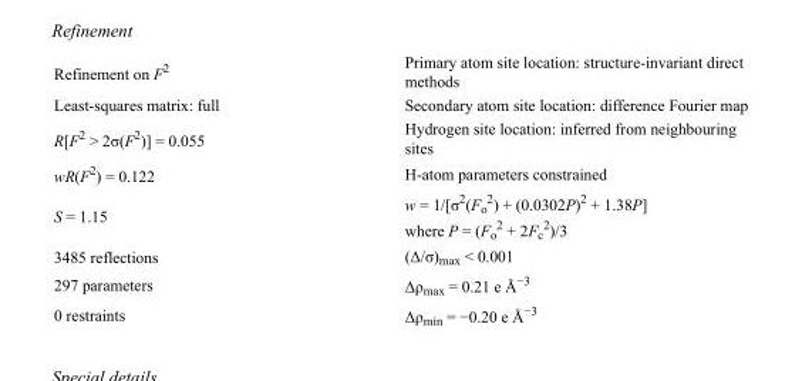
<table><tbody><tr><td>Refinement on F<sup>2</sup></td><td>Primary atom site location: structure-invariant direct methods</td></tr><tr><td>Least-squares matrix: full</td><td>Secondary atom site location: difference Fourier map</td></tr><tr><td>R[F<sup>2</sup> &gt; 2σ(F<sup>2</sup>)] = 0.055</td><td>Hydrogen site location: inferred from neighbouring sites</td></tr><tr><td>wR(F<sup>2</sup>) = 0.122</td><td>H-atom parameters constrained</td></tr><tr><td>S = 1.15</td><td>w = 1/[σ<sup>2</sup>(F<sub>o</sub> <sup>2</sup>) + (0.0302P)<sup>2</sup> + 1.38P] where P = (F<sub>o</sub> <sup>2</sup> + 2F<sub>c</sub> <sup>2</sup>)/3</td></tr><tr><td>3485 reflections</td><td>(Δ/σ)<sub>max</sub> &lt; 0.001</td></tr><tr><td>297 parameters</td><td>Δρ<sub>max</sub> = 0.21 e Å<sup>−3</sup></td></tr><tr><td>0 restraints</td><td>Δρmin = −0.20 e Å−3</td></tr></tbody></table>